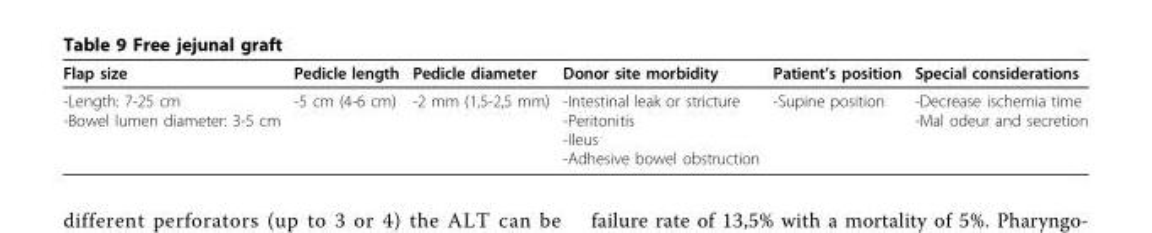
<table><thead><tr><td>Flap size</td><td>Pedicle length</td><td>Pedicle diameter</td><td>Donor site morbidity</td><td>Patient’s position</td><td>Special considerations</td></tr></thead><tbody><tr><td>-Length: 7-25 cm -Bowel lumen diameter: 3-5 cm</td><td>-5 cm (4-6 cm)</td><td>-2 mm (1,5-2,5 mm)</td><td>-Intestinal leak or stricture -Peritonitis -Ileus -Adhesive bowel obstruction</td><td>-Supine position</td><td>-Decrease ischemia time -Mal odeur and secretion</td></tr></tbody></table>